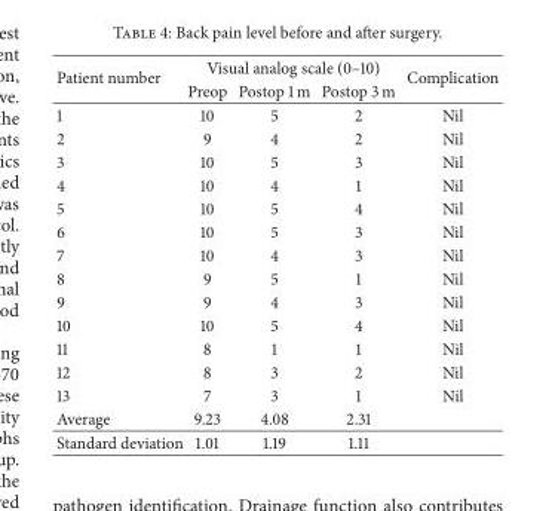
<table><thead><tr><td rowspan="2">Patient number</td><td colspan="3">Visual analog scale (0–10)</td><td rowspan="2">Complication</td></tr><tr><td>Preop</td><td>Postop 1 m</td><td>Postop 3 m</td></tr></thead><tbody><tr><td>1</td><td>10</td><td>5</td><td>2</td><td>Nil</td></tr><tr><td>2</td><td>9</td><td>4</td><td>2</td><td>Nil</td></tr><tr><td>3</td><td>10</td><td>5</td><td>3</td><td>Nil</td></tr><tr><td>4</td><td>10</td><td>4</td><td>1</td><td>Nil</td></tr><tr><td>5</td><td>10</td><td>5</td><td>4</td><td>Nil</td></tr><tr><td>6</td><td>10</td><td>5</td><td>3</td><td>Nil</td></tr><tr><td>7</td><td>10</td><td>4</td><td>3</td><td>Nil</td></tr><tr><td>8</td><td>9</td><td>5</td><td>1</td><td>Nil</td></tr><tr><td>9</td><td>9</td><td>4</td><td>3</td><td>Nil</td></tr><tr><td>10</td><td>10</td><td>5</td><td>4</td><td>Nil</td></tr><tr><td>11</td><td>8</td><td>1</td><td>1</td><td>Nil</td></tr><tr><td>12</td><td>8</td><td>3</td><td>2</td><td>Nil</td></tr><tr><td>13</td><td>7</td><td>3</td><td>1</td><td>Nil</td></tr><tr><td>Average</td><td>9.23</td><td>4.08</td><td>2.31</td><td></td></tr><tr><td>Standard deviation</td><td>1.01</td><td>1.19</td><td>1.11</td><td></td></tr></tbody></table>